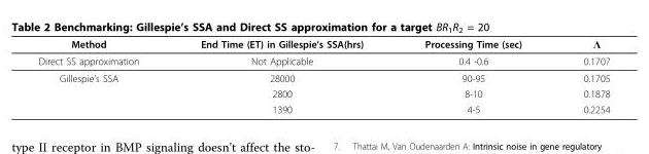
<table><thead><tr><td>Method</td><td>End Time (ET) in Gillespie’s SSA(hrs)</td><td>Processing Time (sec)</td><td>Λ</td></tr></thead><tbody><tr><td>Direct SS approximation</td><td>Not Applicable</td><td>0.4 -0.6</td><td>0.1707</td></tr><tr><td rowspan="3">Gillespie’s SSA</td><td>28000</td><td>90-95</td><td>0.1705</td></tr><tr><td>2800</td><td>8-10</td><td>0.1878</td></tr><tr><td>1390</td><td>4-5</td><td>0.2254</td></tr></tbody></table>